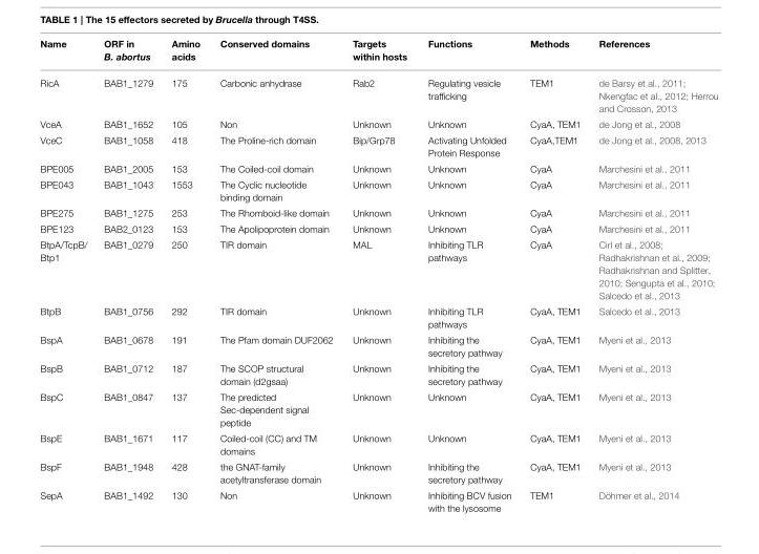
<table><thead><tr><td>Name</td><td>ORF in B. abortus</td><td>Amino acids</td><td>Conserved domains</td><td>Targets within hosts</td><td>Functions</td><td>Methods</td><td>References</td></tr></thead><tbody><tr><td>RicA</td><td>BAB1_1279</td><td>175</td><td>Carbonic anhydrase</td><td>Rab2</td><td>Regulating vesicle trafficking</td><td>TEM1</td><td>de Barsy et al., 2011; Nkengfac et al., 2012; Herrou and Crosson, 2013</td></tr><tr><td>VceA</td><td>BAB1_1652</td><td>105</td><td>Non</td><td>Unknown</td><td>Unknown</td><td>CyaA, TEM1</td><td>de Jong et al., 2008</td></tr><tr><td>VceC</td><td>BAB1_1058</td><td>418</td><td>The Proline-rich domain</td><td>Bip/Grp78</td><td>Activating Unfolded Protein Response</td><td>CyaA,TEM1</td><td>de Jong et al., 2008, 2013</td></tr><tr><td>BPE005</td><td>BAB1_2005</td><td>153</td><td>The Coiled-coil domain</td><td>Unknown</td><td>Unknown</td><td>CyaA</td><td>Marchesini et al., 2011</td></tr><tr><td>BPE043</td><td>BAB1_1043</td><td>1553</td><td>The Cyclic nucleotide binding domain</td><td>Unknown</td><td>Unknown</td><td>CyaA</td><td>Marchesini et al., 2011</td></tr><tr><td>BPE275</td><td>BAB1_1275</td><td>253</td><td>The Rhomboid-like domain</td><td>Unknown</td><td>Unknown</td><td>CyaA</td><td>Marchesini et al., 2011</td></tr><tr><td>BPE123</td><td>BAB2_0123</td><td>153</td><td>The Apolipoprotein domain</td><td>Unknown</td><td>Unknown</td><td>CyaA</td><td>Marchesini et al., 2011</td></tr><tr><td>BtpA/TcpB/ Btp1</td><td>BAB1_0279</td><td>250</td><td>TIR domain</td><td>MAL</td><td>Inhibiting TLR pathways</td><td>CyaA</td><td>Cirl et al., 2008; Radhakrishnan et al., 2009; Radhakrishnan and Splitter, 2010; Sengupta et al., 2010; Salcedo et al., 2013</td></tr><tr><td>BtpB</td><td>BAB1_0756</td><td>292</td><td>TIR domain</td><td>Unknown</td><td>Inhibiting TLR pathways</td><td>CyaA, TEM1</td><td>Salcedo et al., 2013</td></tr><tr><td>BspA</td><td>BAB1_0678</td><td>191</td><td>The Pfam domain DUF2062</td><td>Unknown</td><td>Inhibiting the secretory pathway</td><td>CyaA, TEM1</td><td>Myeni et al., 2013</td></tr><tr><td>BspB</td><td>BAB1_0712</td><td>187</td><td>The SCOP structural domain (d2gsaa)</td><td>Unknown</td><td>Inhibiting the secretory pathway</td><td>CyaA, TEM1</td><td>Myeni et al., 2013</td></tr><tr><td>BspC</td><td>BAB1_0847</td><td>137</td><td>The predicted Sec-dependent signal peptide</td><td>Unknown</td><td>Unknown</td><td>CyaA, TEM1</td><td>Myeni et al., 2013</td></tr><tr><td>BspE</td><td>BAB1_1671</td><td>117</td><td>Coiled-coil (CC) and TM domains</td><td>Unknown</td><td>Unknown</td><td>CyaA, TEM1</td><td>Myeni et al., 2013</td></tr><tr><td>BspF</td><td>BAB1_1948</td><td>428</td><td>the GNAT-family acetyltransferase domain</td><td>Unknown</td><td>Inhibiting the secretory pathway</td><td>CyaA, TEM1</td><td>Myeni et al., 2013</td></tr><tr><td>SepA</td><td>BAB1_1492</td><td>130</td><td>Non</td><td>Unknown</td><td>Inhibiting BCV fusion with the lysosome</td><td>TEM1</td><td>Döhmer et al., 2014</td></tr></tbody></table>